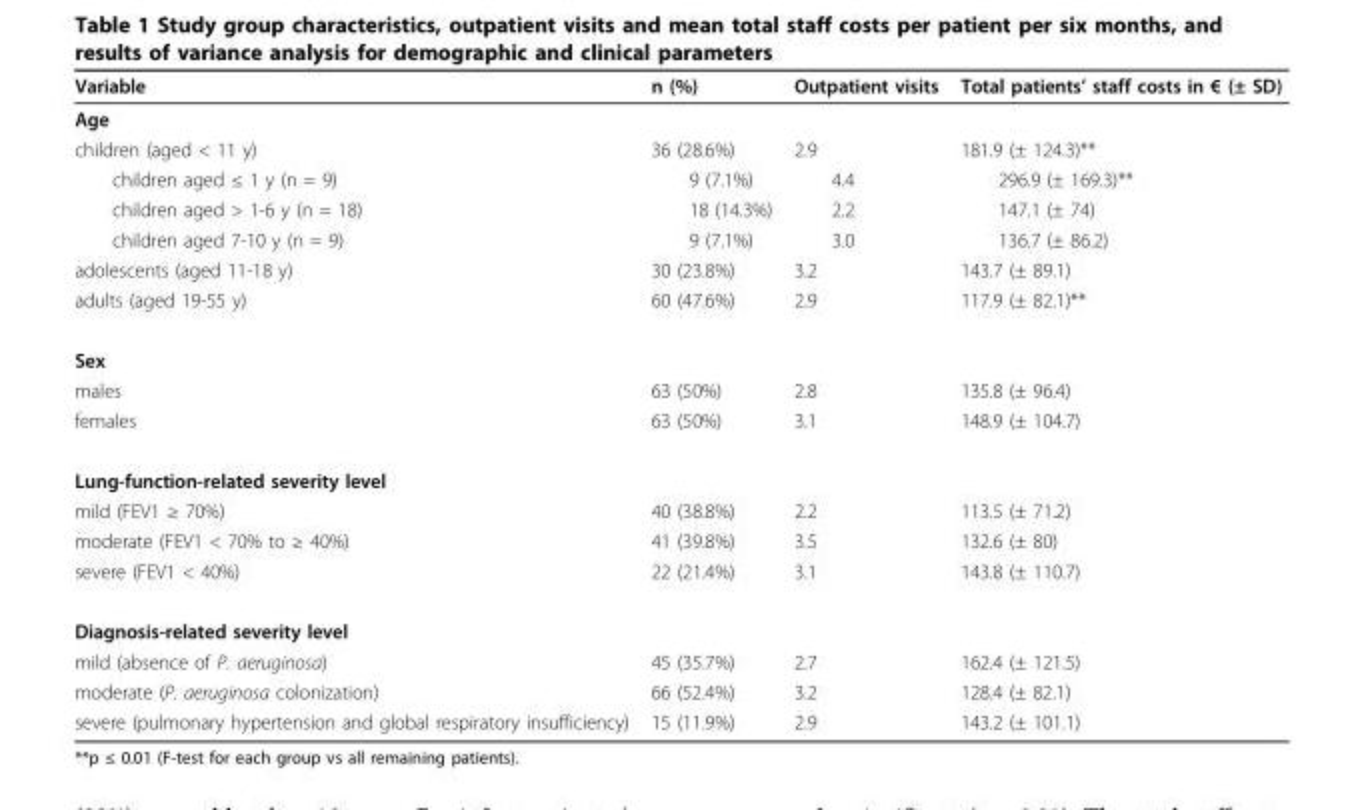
<table><thead><tr><td>Variable</td><td>n (%)</td><td>Outpatient visits</td><td>Total patients’ staff costs in € (± SD)</td></tr></thead><tbody><tr><td colspan="4">Age</td></tr><tr><td>children (aged &lt; 11 y)</td><td>36 (28.6%)</td><td>2.9</td><td>181.9 (± 124.3)**</td></tr><tr><td>children aged ≤ 1 y (n = 9)</td><td>9 (7.1%)</td><td>4.4</td><td>296.9 (± 169.3)**</td></tr><tr><td>children aged &gt; 1-6 y (n = 18)</td><td>18 (14.3%)</td><td>2.2</td><td>147.1 (± 74)</td></tr><tr><td>children aged 7-10 y (n = 9)</td><td>9 (7.1%)</td><td>3.0</td><td>136.7 (± 86.2)</td></tr><tr><td>adolescents (aged 11-18 y)</td><td>30 (23.8%)</td><td>3.2</td><td>143.7 (± 89.1)</td></tr><tr><td>adults (aged 19-55 y)</td><td>60 (47.6%)</td><td>2.9</td><td>117.9 (± 82.1)**</td></tr><tr><td colspan="4">Sex</td></tr><tr><td>males</td><td>63 (50%)</td><td>2.8</td><td>135.8 (± 96.4)</td></tr><tr><td>females</td><td>63 (50%)</td><td>3.1</td><td>148.9 (± 104.7)</td></tr><tr><td colspan="4">Lung-function-related severity level</td></tr><tr><td>mild (FEV1 ≥ 70%)</td><td>40 (38.8%)</td><td>2.2</td><td>113.5 (± 71.2)</td></tr><tr><td>moderate (FEV1 &lt; 70% to ≥ 40%)</td><td>41 (39.8%)</td><td>3.5</td><td>132.6 (± 80)</td></tr><tr><td>severe (FEV1 &lt; 40%)</td><td>22 (21.4%)</td><td>3.1</td><td>143.8 (± 110.7)</td></tr><tr><td colspan="4">Diagnosis-related severity level</td></tr><tr><td>mild (absence of P. aeruginosa)</td><td>45 (35.7%)</td><td>2.7</td><td>162.4 (± 121.5)</td></tr><tr><td>moderate (P. aeruginosa colonization)</td><td>66 (52.4%)</td><td>3.2</td><td>128.4 (± 82.1)</td></tr><tr><td>severe (pulmonary hypertension and global respiratory insufficiency)</td><td>15 (11.9%)</td><td>2.9</td><td>143.2 (± 101.1)</td></tr></tbody></table>